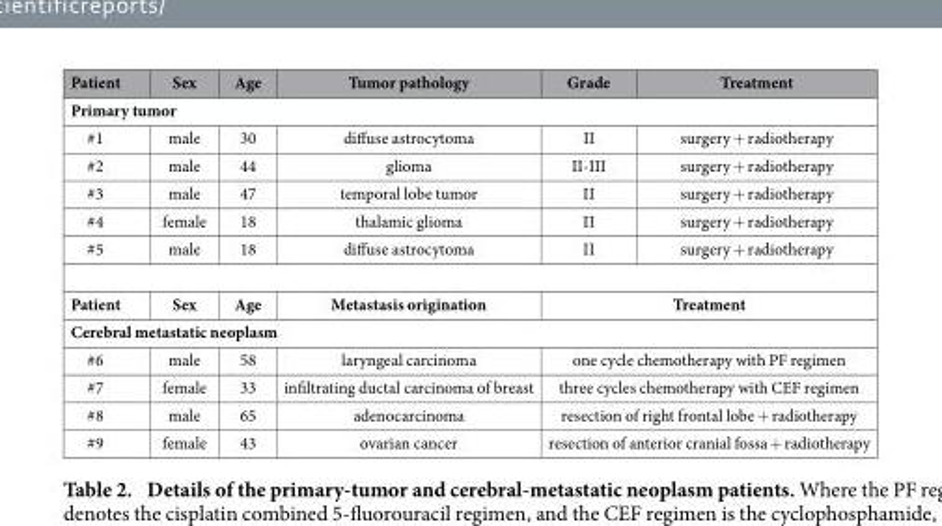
<table><thead><tr><td>Patient</td><td>Sex</td><td>Age</td><td>Tumor pathology</td><td>Grade</td><td>Treatment</td></tr></thead><tbody><tr><td colspan="6">Primary tumor</td></tr><tr><td>#1</td><td>male</td><td>30</td><td>diffuse astrocytoma</td><td>II</td><td>surgery + radiotherapy</td></tr><tr><td>#2</td><td>male</td><td>44</td><td>glioma</td><td>II-III</td><td>surgery + radiotherapy</td></tr><tr><td>#3</td><td>male</td><td>47</td><td>temporal lobe tumor</td><td>II</td><td>surgery + radiotherapy</td></tr><tr><td>#4</td><td>female</td><td>18</td><td>thalamic glioma</td><td>II</td><td>surgery + radiotherapy</td></tr><tr><td>#5</td><td>male</td><td>18</td><td>diffuse astrocytoma</td><td>II</td><td>surgery + radiotherapy</td></tr><tr><td>Patient</td><td>Sex</td><td>Age</td><td>Metastasis origination</td><td colspan="2">Treatment</td></tr><tr><td colspan="6">Cerebral metastatic neoplasm</td></tr><tr><td>#6</td><td>male</td><td>58</td><td>laryngeal carcinoma</td><td colspan="2">one cycle chemotherapy with PF regimen</td></tr><tr><td>#7</td><td>female</td><td>33</td><td>infiltrating ductal carcinoma of breast</td><td colspan="2">three cycles chemotherapy with CEF regimen</td></tr><tr><td>#8</td><td>male</td><td>65</td><td>adenocarcinoma</td><td colspan="2">resection of right frontal lobe + radiotherapy</td></tr><tr><td>#9</td><td>female</td><td>43</td><td>ovarian cancer</td><td colspan="2">resection of anterior cranial fossa + radiotherapy</td></tr></tbody></table>